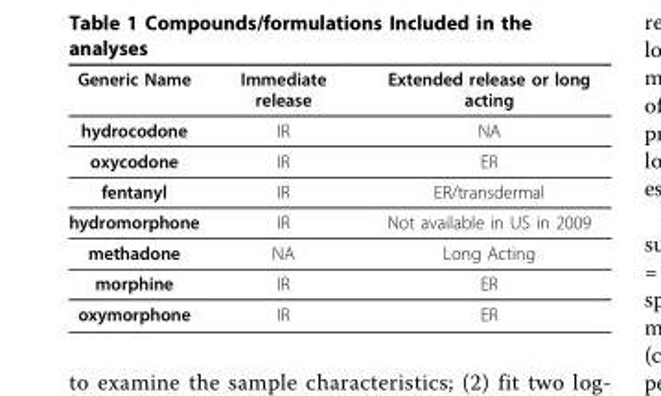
<table><thead><tr><td>Generic Name</td><td>Immediate release</td><td>Extended release or long acting</td></tr></thead><tbody><tr><td>hydrocodone</td><td>IR</td><td>NA</td></tr><tr><td>oxycodone</td><td>IR</td><td>ER</td></tr><tr><td>fentanyl</td><td>IR</td><td>ER/transdermal</td></tr><tr><td>hydromorphone</td><td>IR</td><td>Not available in US in 2009</td></tr><tr><td>methadone</td><td>NA</td><td>Long Acting</td></tr><tr><td>morphine</td><td>IR</td><td>ER</td></tr><tr><td>oxymorphone</td><td>IR</td><td>ER</td></tr></tbody></table>